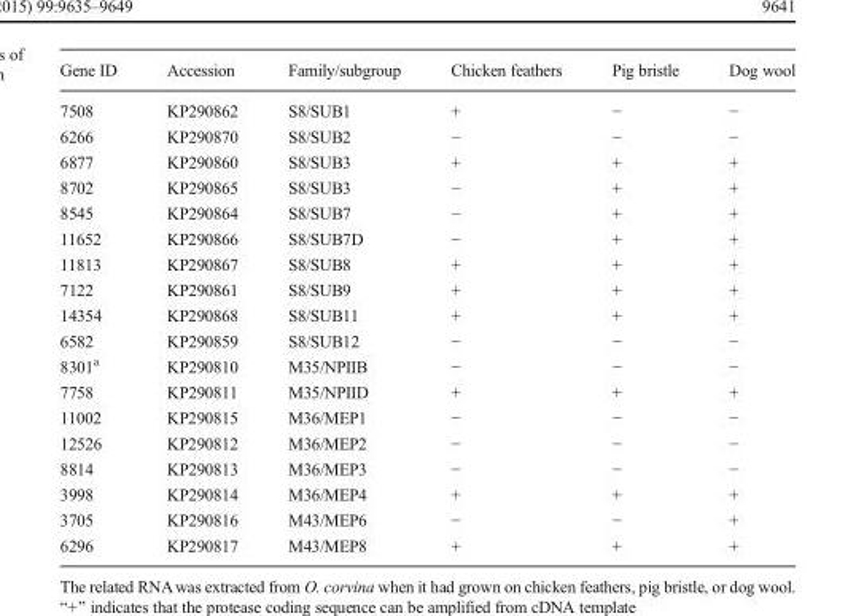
<table><thead><tr><td>Gene ID</td><td>Accession</td><td>Family/subgroup</td><td>Chicken feathers</td><td>Pig bristle</td><td>Dog wool</td></tr></thead><tbody><tr><td>7508</td><td>KP290862</td><td>S8/SUB1</td><td>+</td><td>−</td><td>−</td></tr><tr><td>6266</td><td>KP290870</td><td>S8/SUB2</td><td>−</td><td>−</td><td>−</td></tr><tr><td>6877</td><td>KP290860</td><td>S8/SUB3</td><td>+</td><td>+</td><td>+</td></tr><tr><td>8702</td><td>KP290865</td><td>S8/SUB3</td><td>−</td><td>+</td><td>+</td></tr><tr><td>8545</td><td>KP290864</td><td>S8/SUB7</td><td>−</td><td>+</td><td>+</td></tr><tr><td>11652</td><td>KP290866</td><td>S8/SUB7D</td><td>−</td><td>+</td><td>+</td></tr><tr><td>11813</td><td>KP290867</td><td>S8/SUB8</td><td>+</td><td>+</td><td>+</td></tr><tr><td>7122</td><td>KP290861</td><td>S8/SUB9</td><td>+</td><td>+</td><td>+</td></tr><tr><td>14354</td><td>KP290868</td><td>S8/SUB11</td><td>+</td><td>+</td><td>+</td></tr><tr><td>6582</td><td>KP290859</td><td>S8/SUB12</td><td>−</td><td>−</td><td>−</td></tr><tr><td>8301<sup>a</sup></td><td>KP290810</td><td>M35/NPIIB</td><td>−</td><td>−</td><td>−</td></tr><tr><td>7758</td><td>KP290811</td><td>M35/NPIID</td><td>+</td><td>+</td><td>+</td></tr><tr><td>11002</td><td>KP290815</td><td>M36/MEP1</td><td>−</td><td>−</td><td>−</td></tr><tr><td>12526</td><td>KP290812</td><td>M36/MEP2</td><td>−</td><td>−</td><td>−</td></tr><tr><td>8814</td><td>KP290813</td><td>M36/MEP3</td><td>−</td><td>−</td><td>−</td></tr><tr><td>3998</td><td>KP290814</td><td>M36/MEP4</td><td>+</td><td>+</td><td>+</td></tr><tr><td>3705</td><td>KP290816</td><td>M43/MEP6</td><td>−</td><td>−</td><td>+</td></tr><tr><td>6296</td><td>KP290817</td><td>M43/MEP8</td><td>+</td><td>+</td><td>+</td></tr></tbody></table>